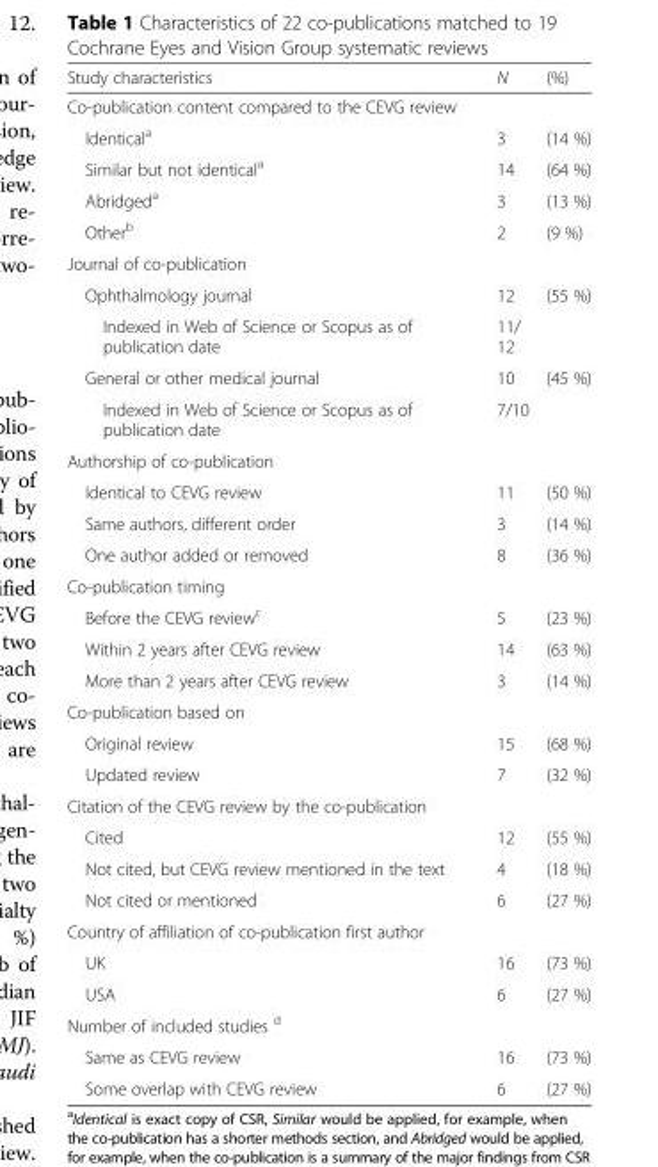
<table><thead><tr><td>Study characteristics</td><td>N</td><td>(%)</td></tr></thead><tbody><tr><td colspan="3">Co-publication content compared to the CEVG review</td></tr><tr><td>Identical<sup>a</sup></td><td>3</td><td>(14 %)</td></tr><tr><td>Similar but not identical<sup>a</sup></td><td>14</td><td>(64 %)</td></tr><tr><td>Abridged<sup>a</sup></td><td>3</td><td>(13 %)</td></tr><tr><td>Other<sup>b</sup></td><td>2</td><td>(9 %)</td></tr><tr><td colspan="3">Journal of co-publication</td></tr><tr><td>Ophthalmology journal</td><td>12</td><td>(55 %)</td></tr><tr><td>Indexed in Web of Science or Scopus as of publication date</td><td>11/ 12</td><td></td></tr><tr><td>General or other medical journal</td><td>10</td><td>(45 %)</td></tr><tr><td>Indexed in Web of Science or Scopus as of publication date</td><td>7/10</td><td></td></tr><tr><td colspan="3">Authorship of co-publication</td></tr><tr><td>Identical to CEVG review</td><td>11</td><td>(50 %)</td></tr><tr><td>Same authors, different order</td><td>3</td><td>(14 %)</td></tr><tr><td>One author added or removed</td><td>8</td><td>(36 %)</td></tr><tr><td colspan="3">Co-publication timing</td></tr><tr><td>Before the CEVG review<sup>c</sup></td><td>5</td><td>(23 %)</td></tr><tr><td>Within 2 years after CEVG review</td><td>14</td><td>(63 %)</td></tr><tr><td>More than 2 years after CEVG review</td><td>3</td><td>(14 %)</td></tr><tr><td colspan="3">Co-publication based on</td></tr><tr><td>Original review</td><td>15</td><td>(68 %)</td></tr><tr><td>Updated review</td><td>7</td><td>(32 %)</td></tr><tr><td colspan="3">Citation of the CEVG review by the co-publication</td></tr><tr><td>Cited</td><td>12</td><td>(55 %)</td></tr><tr><td>Not cited, but CEVG review mentioned in the text</td><td>4</td><td>(18 %)</td></tr><tr><td>Not cited or mentioned</td><td>6</td><td>(27 %)</td></tr><tr><td colspan="3">Country of affiliation of co-publication first author</td></tr><tr><td>UK</td><td>16</td><td>(73 %)</td></tr><tr><td>USA</td><td>6</td><td>(27 %)</td></tr><tr><td colspan="3">Number of included studies <sup>d</sup></td></tr><tr><td>Same as CEVG review</td><td>16</td><td>(73 %)</td></tr><tr><td>Some overlap with CEVG review</td><td>6</td><td>(27 %)</td></tr></tbody></table>